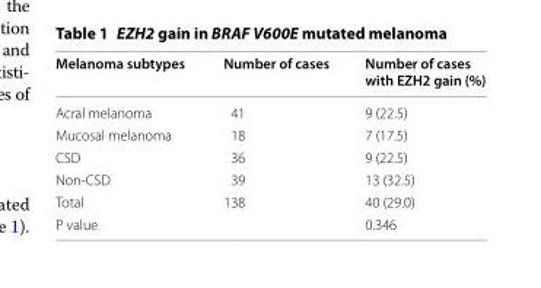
<table><thead><tr><td>Melanoma subtypes</td><td>Number of cases</td><td>Number of cases with EZH2 gain (%)</td></tr></thead><tbody><tr><td>Acral melanoma</td><td>41</td><td>9 (22.5)</td></tr><tr><td>Mucosal melanoma</td><td>18</td><td>7 (17.5)</td></tr><tr><td>CSD</td><td>36</td><td>9 (22.5)</td></tr><tr><td>Non-CSD</td><td>39</td><td>13 (32.5)</td></tr><tr><td>Total</td><td>138</td><td>40 (29.0)</td></tr><tr><td>P value</td><td></td><td>0.346</td></tr></tbody></table>